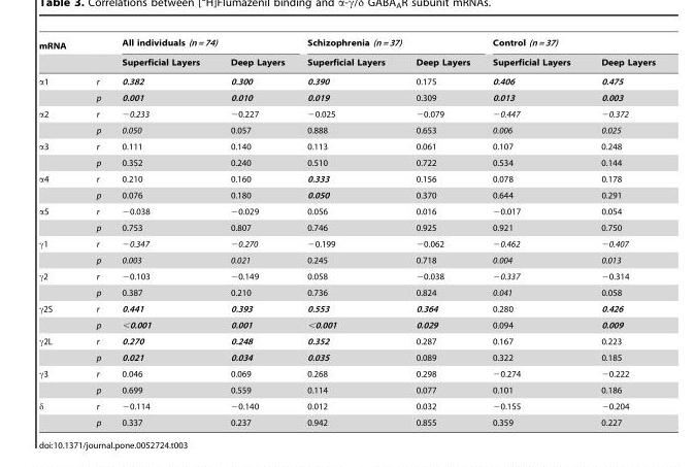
<table><thead><tr><td rowspan="2">mRNA</td><td rowspan="2"></td><td colspan="2">All individuals (n = 74)</td><td colspan="2">Schizophrenia (n = 37)</td><td colspan="2">Control (n = 37)</td></tr><tr><td>Superficial Layers</td><td>Deep Layers</td><td>Superficial Layers</td><td>Deep Layers</td><td>Superficial Layers</td><td>Deep Layers</td></tr></thead><tbody><tr><td rowspan="2">α1</td><td>r</td><td>0.382</td><td>0.300</td><td>0.390</td><td>0.175</td><td>0.406</td><td>0.475</td></tr><tr><td>p</td><td>0.001</td><td>0.010</td><td>0.019</td><td>0.309</td><td>0.013</td><td>0.003</td></tr><tr><td rowspan="2">α2</td><td>r</td><td>−0.233</td><td>−0.227</td><td>−0.025</td><td>−0.079</td><td>−0.447</td><td>−0.372</td></tr><tr><td>p</td><td>0.050</td><td>0.057</td><td>0.888</td><td>0.653</td><td>0.006</td><td>0.025</td></tr><tr><td rowspan="2">α3</td><td>r</td><td>0.111</td><td>0.140</td><td>0.113</td><td>0.061</td><td>0.107</td><td>0.248</td></tr><tr><td>p</td><td>0.352</td><td>0.240</td><td>0.510</td><td>0.722</td><td>0.534</td><td>0.144</td></tr><tr><td rowspan="2">α4</td><td>r</td><td>0.210</td><td>0.160</td><td>0.333</td><td>0.156</td><td>0.078</td><td>0.178</td></tr><tr><td>p</td><td>0.076</td><td>0.180</td><td>0.050</td><td>0.370</td><td>0.644</td><td>0.291</td></tr><tr><td rowspan="2">α5</td><td>r</td><td>−0.038</td><td>−0.029</td><td>0.056</td><td>0.016</td><td>−0.017</td><td>0.054</td></tr><tr><td>p</td><td>0.753</td><td>0.807</td><td>0.746</td><td>0.925</td><td>0.921</td><td>0.750</td></tr><tr><td rowspan="2">γ1</td><td>r</td><td>−0.347</td><td>−0.270</td><td>−0.199</td><td>−0.062</td><td>−0.462</td><td>−0.407</td></tr><tr><td>p</td><td>0.003</td><td>0.021</td><td>0.245</td><td>0.718</td><td>0.004</td><td>0.013</td></tr><tr><td rowspan="2">γ2</td><td>r</td><td>−0.103</td><td>−0.149</td><td>0.058</td><td>−0.038</td><td>−0.337</td><td>−0.314</td></tr><tr><td>p</td><td>0.387</td><td>0.210</td><td>0.736</td><td>0.824</td><td>0.041</td><td>0.058</td></tr><tr><td rowspan="2">γ2S</td><td>r</td><td>0.441</td><td>0.393</td><td>0.553</td><td>0.364</td><td>0.280</td><td>0.426</td></tr><tr><td>p</td><td>&lt;0.001</td><td>0.001</td><td>&lt;0.001</td><td>0.029</td><td>0.094</td><td>0.009</td></tr><tr><td rowspan="2">γ2L</td><td>r</td><td>0.270</td><td>0.248</td><td>0.352</td><td>0.287</td><td>0.167</td><td>0.223</td></tr><tr><td>p</td><td>0.021</td><td>0.034</td><td>0.035</td><td>0.089</td><td>0.322</td><td>0.185</td></tr><tr><td rowspan="2">γ3</td><td>r</td><td>0.046</td><td>0.069</td><td>0.268</td><td>0.298</td><td>−0.274</td><td>−0.222</td></tr><tr><td>p</td><td>0.699</td><td>0.559</td><td>0.114</td><td>0.077</td><td>0.101</td><td>0.186</td></tr><tr><td rowspan="2">δ</td><td>r</td><td>−0.114</td><td>−0.140</td><td>0.012</td><td>0.032</td><td>−0.155</td><td>−0.204</td></tr><tr><td>p</td><td>0.337</td><td>0.237</td><td>0.942</td><td>0.855</td><td>0.359</td><td>0.227</td></tr></tbody></table>